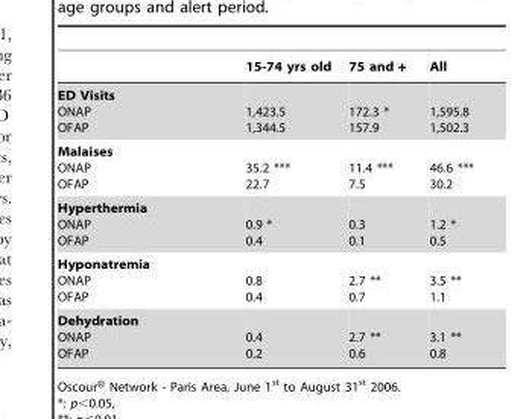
<table><thead><tr><td></td><td>15-74 yrs old</td><td>75 and +</td><td>All</td></tr></thead><tbody><tr><td>ED Visits ONAP OFAP</td><td>1,423.5 1,344.5</td><td>172.3 * 157.9</td><td>1,595.8 1,502.3</td></tr><tr><td>Malaises ONAP OFAP</td><td>35.2 *** 22.7</td><td>11.4 *** 7.5</td><td>46.6 *** 30.2</td></tr><tr><td>Hyperthermia ONAP OFAP</td><td>0.9 * 0.4</td><td>0.3 0.1</td><td>1.2 * 0.5</td></tr><tr><td>Hyponatremia ONAP OFAP</td><td>0.8 0.4</td><td>2.7 ** 0.7</td><td>3.5 ** 1.1</td></tr><tr><td>Dehydration ONAP OFAP</td><td>0.4 0.2</td><td>2.7 ** 0.6</td><td>3.1 ** 0.8</td></tr></tbody></table>